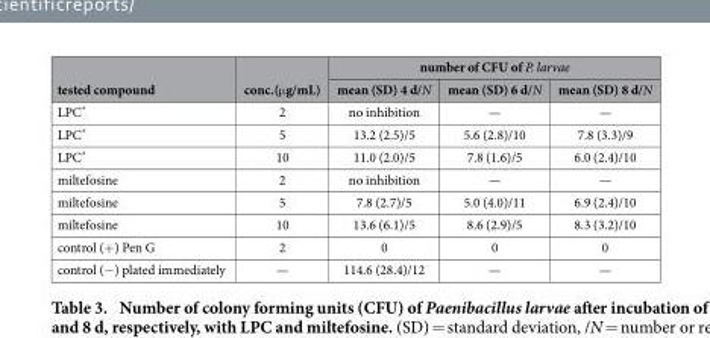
<table><thead><tr><td rowspan="2">tested compound</td><td rowspan="2">conc.(μ g/mL)</td><td colspan="3">number of CFU of P. larvae</td></tr><tr><td>mean (SD) 4 d/N</td><td>mean (SD) 6 d/N</td><td>mean (SD) 8 d/N</td></tr></thead><tbody><tr><td>LPC*</td><td>2</td><td>no inhibition</td><td>—</td><td>—</td></tr><tr><td>LPC*</td><td>5</td><td>13.2 (2.5)/5</td><td>5.6 (2.8)/10</td><td>7.8 (3.3)/9</td></tr><tr><td>LPC*</td><td>10</td><td>11.0 (2.0)/5</td><td>7.8 (1.6)/5</td><td>6.0 (2.4)/10</td></tr><tr><td>miltefosine</td><td>2</td><td>no inhibition</td><td>—</td><td>—</td></tr><tr><td>miltefosine</td><td>5</td><td>7.8 (2.7)/5</td><td>5.0 (4.0)/11</td><td>6.9 (2.4)/10</td></tr><tr><td>miltefosine</td><td>10</td><td>13.6 (6.1)/5</td><td>8.6 (2.9)/5</td><td>8.3 (3.2)/10</td></tr><tr><td>control (+ ) Pen G</td><td>2</td><td>0</td><td>0</td><td>0</td></tr><tr><td>control (− ) plated immediately</td><td>—</td><td>114.6 (28.4)/12</td><td>—</td><td>—</td></tr></tbody></table>